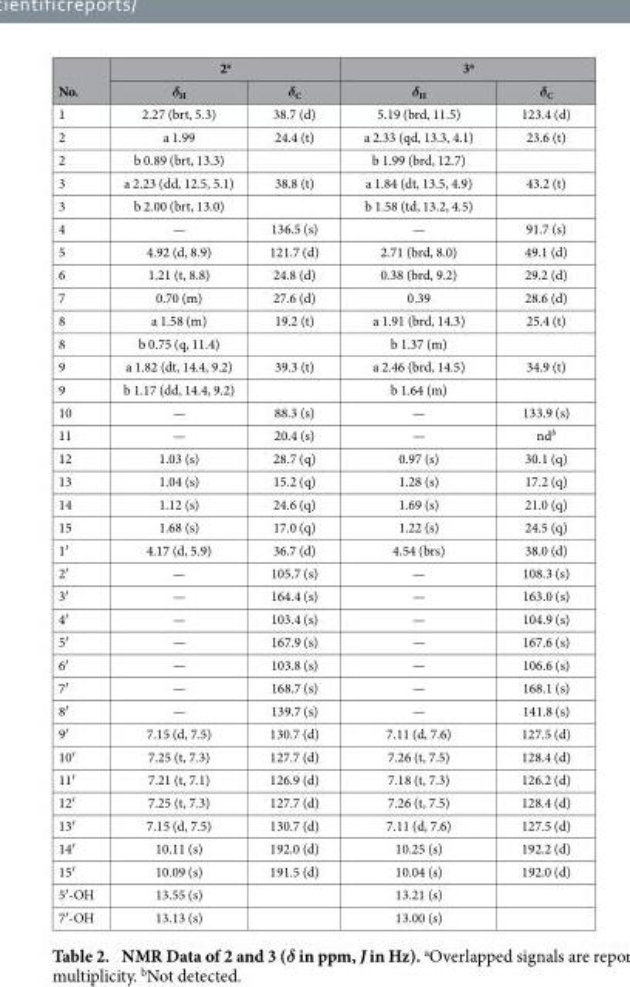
<table><thead><tr><td rowspan="2">No.</td><td colspan="2">2<sup>a</sup></td><td colspan="2">3<sup>a</sup></td></tr><tr><td>δ<sub>H</sub></td><td>δ<sub>C</sub></td><td>δ<sub>H</sub></td><td>δ<sub>C</sub></td></tr></thead><tbody><tr><td>1</td><td>2.27 (brt, 5.3)</td><td>38.7 (d)</td><td>5.19 (brd, 11.5)</td><td>123.4 (d)</td></tr><tr><td>2</td><td>a 1.99</td><td>24.4 (t)</td><td>a 2.33 (qd, 13.3, 4.1)</td><td>23.6 (t)</td></tr><tr><td>2</td><td>b 0.89 (brt, 13.3)</td><td></td><td>b 1.99 (brd, 12.7)</td><td></td></tr><tr><td>3</td><td>a 2.23 (dd, 12.5, 5.1)</td><td>38.8 (t)</td><td>a 1.84 (dt, 13.5, 4.9)</td><td>43.2 (t)</td></tr><tr><td>3</td><td>b 2.00 (brt, 13.0)</td><td></td><td>b 1.58 (td, 13.2, 4.5)</td><td></td></tr><tr><td>4</td><td>—</td><td>136.5 (s)</td><td>—</td><td>91.7 (s)</td></tr><tr><td>5</td><td>4.92 (d, 8.9)</td><td>121.7 (d)</td><td>2.71 (brd, 8.0)</td><td>49.1 (d)</td></tr><tr><td>6</td><td>1.21 (t, 8.8)</td><td>24.8 (d)</td><td>0.38 (brd, 9.2)</td><td>29.2 (d)</td></tr><tr><td>7</td><td>0.70 (m)</td><td>27.6 (d)</td><td>0.39</td><td>28.6 (d)</td></tr><tr><td>8</td><td>a 1.58 (m)</td><td>19.2 (t)</td><td>a 1.91 (brd, 14.3)</td><td>25.4 (t)</td></tr><tr><td>8</td><td>b 0.75 (q, 11.4)</td><td></td><td>b 1.37 (m)</td><td></td></tr><tr><td>9</td><td>a 1.82 (dt, 14.4, 9.2)</td><td>39.3 (t)</td><td>a 2.46 (brd, 14.5)</td><td>34.9 (t)</td></tr><tr><td>9</td><td>b 1.17 (dd, 14.4, 9.2)</td><td></td><td>b 1.64 (m)</td><td></td></tr><tr><td>10</td><td>—</td><td>88.3 (s)</td><td>—</td><td>133.9 (s)</td></tr><tr><td>11</td><td>—</td><td>20.4 (s)</td><td>—</td><td>nd<sup>b</sup></td></tr><tr><td>12</td><td>1.03 (s)</td><td>28.7 (q)</td><td>0.97 (s)</td><td>30.1 (q)</td></tr><tr><td>13</td><td>1.04 (s)</td><td>15.2 (q)</td><td>1.28 (s)</td><td>17.2 (q)</td></tr><tr><td>14</td><td>1.12 (s)</td><td>24.6 (q)</td><td>1.69 (s)</td><td>21.0 (q)</td></tr><tr><td>15</td><td>1.68 (s)</td><td>17.0 (q)</td><td>1.22 (s)</td><td>24.5 (q)</td></tr><tr><td>1′</td><td>4.17 (d, 5.9)</td><td>36.7 (d)</td><td>4.54 (brs)</td><td>38.0 (d)</td></tr><tr><td>2′</td><td>—</td><td>105.7 (s)</td><td>—</td><td>108.3 (s)</td></tr><tr><td>3′</td><td>—</td><td>164.4 (s)</td><td>—</td><td>163.0 (s)</td></tr><tr><td>4′</td><td>—</td><td>103.4 (s)</td><td>—</td><td>104.9 (s)</td></tr><tr><td>5′</td><td>—</td><td>167.9 (s)</td><td>—</td><td>167.6 (s)</td></tr><tr><td>6′</td><td>—</td><td>103.8 (s)</td><td>—</td><td>106.6 (s)</td></tr><tr><td>7′</td><td>—</td><td>168.7 (s)</td><td>—</td><td>168.1 (s)</td></tr><tr><td>8′</td><td>—</td><td>139.7 (s)</td><td>—</td><td>141.8 (s)</td></tr><tr><td>9′</td><td>7.15 (d, 7.5)</td><td>130.7 (d)</td><td>7.11 (d, 7.6)</td><td>127.5 (d)</td></tr><tr><td>10′</td><td>7.25 (t, 7.3)</td><td>127.7 (d)</td><td>7.26 (t, 7.5)</td><td>128.4 (d)</td></tr><tr><td>11′</td><td>7.21 (t, 7.1)</td><td>126.9 (d)</td><td>7.18 (t, 7.3)</td><td>126.2 (d)</td></tr><tr><td>12′</td><td>7.25 (t, 7.3)</td><td>127.7 (d)</td><td>7.26 (t, 7.5)</td><td>128.4 (d)</td></tr><tr><td>13′</td><td>7.15 (d, 7.5)</td><td>130.7 (d)</td><td>7.11 (d, 7.6)</td><td>127.5 (d)</td></tr><tr><td>14′</td><td>10.11 (s)</td><td>192.0 (d)</td><td>10.25 (s)</td><td>192.2 (d)</td></tr><tr><td>15′</td><td>10.09 (s)</td><td>191.5 (d)</td><td>10.04 (s)</td><td>192.0 (d)</td></tr><tr><td>5′ -OH</td><td>13.55 (s)</td><td></td><td>13.21 (s)</td><td></td></tr><tr><td>7′ -OH</td><td>13.13 (s)</td><td></td><td>13.00 (s)</td><td></td></tr></tbody></table>